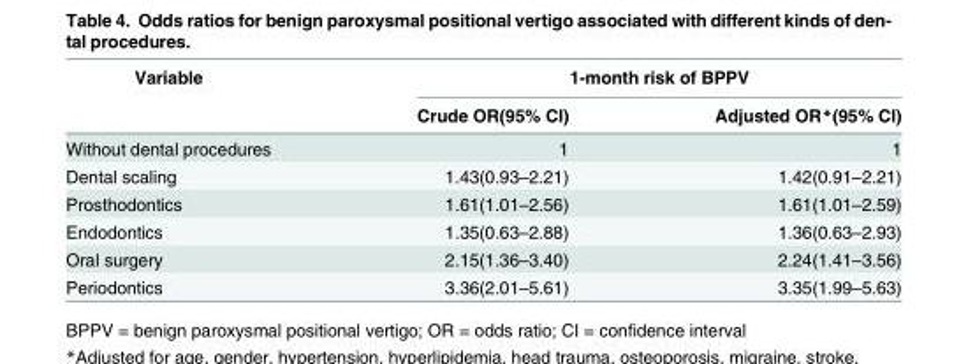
<table><thead><tr><td rowspan="2">Variable</td><td colspan="2">1-month risk of BPPV</td></tr><tr><td>Crude OR(95% CI)</td><td>Adjusted OR*(95% CI)</td></tr></thead><tbody><tr><td>Without dental procedures</td><td>1</td><td>1</td></tr><tr><td>Dental scaling</td><td>1.43(0.93–2.21)</td><td>1.42(0.91–2.21)</td></tr><tr><td>Prosthodontics</td><td>1.61(1.01–2.56)</td><td>1.61(1.01–2.59)</td></tr><tr><td>Endodontics</td><td>1.35(0.63–2.88)</td><td>1.36(0.63–2.93)</td></tr><tr><td>Oral surgery</td><td>2.15(1.36–3.40)</td><td>2.24(1.41–3.56)</td></tr><tr><td>Periodontics</td><td>3.36(2.01–5.61)</td><td>3.35(1.99–5.63)</td></tr></tbody></table>